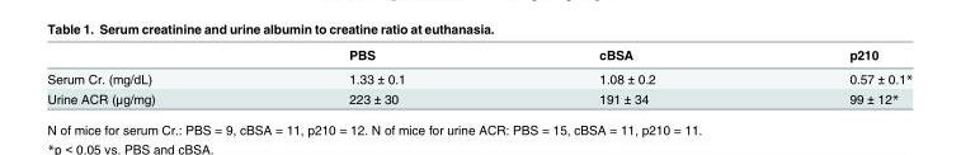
<table><thead><tr><td></td><td>PBS</td><td>cBSA</td><td>p210</td></tr></thead><tbody><tr><td>Serum Cr. (mg/dL)</td><td>1.33 ± 0.1</td><td>1.08 ± 0.2</td><td>0.57 ± 0.1*</td></tr><tr><td>Urine ACR (μg/mg)</td><td>223 ± 30</td><td>191 ± 34</td><td>99 ± 12*</td></tr></tbody></table>